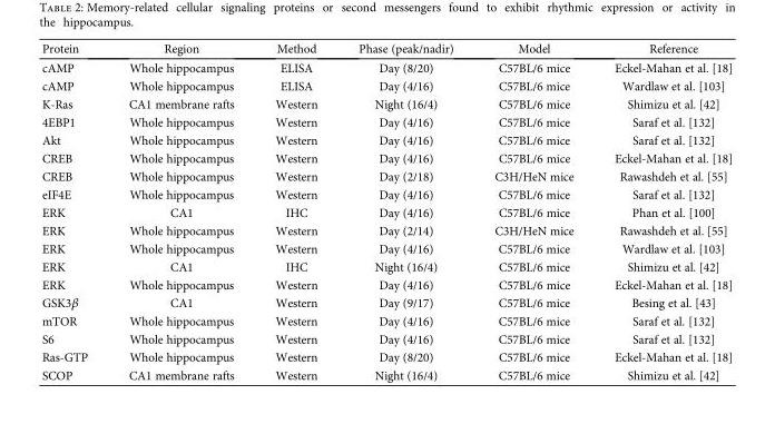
<table><thead><tr><td>Protein</td><td>Region</td><td>Method</td><td>Phase (peak/nadir)</td><td>Model</td><td>Reference</td></tr></thead><tbody><tr><td>cAMP</td><td>Whole hippocampus</td><td>ELISA</td><td>Day (8/20)</td><td>C57BL/6 mice</td><td>Eckel-Mahan et al. [18]</td></tr><tr><td>cAMP</td><td>Whole hippocampus</td><td>ELISA</td><td>Day (4/16)</td><td>C57BL/6 mice</td><td>Wardlaw et al. [103]</td></tr><tr><td>K-Ras</td><td>CA1 membrane rafts</td><td>Western</td><td>Night (16/4)</td><td>C57BL/6 mice</td><td>Shimizu et al. [42]</td></tr><tr><td>4EBP1</td><td>Whole hippocampus</td><td>Western</td><td>Day (4/16)</td><td>C57BL/6 mice</td><td>Saraf et al. [132]</td></tr><tr><td>Akt</td><td>Whole hippocampus</td><td>Western</td><td>Day (4/16)</td><td>C57BL/6 mice</td><td>Saraf et al. [132]</td></tr><tr><td>CREB</td><td>Whole hippocampus</td><td>Western</td><td>Day (4/16)</td><td>C57BL/6 mice</td><td>Eckel-Mahan et al. [18]</td></tr><tr><td>CREB</td><td>Whole hippocampus</td><td>Western</td><td>Day (2/18)</td><td>C3H/HeN mice</td><td>Rawashdeh et al. [55]</td></tr><tr><td>eIF4E</td><td>Whole hippocampus</td><td>Western</td><td>Day (4/16)</td><td>C57BL/6 mice</td><td>Saraf et al. [132]</td></tr><tr><td>ERK</td><td>CA1</td><td>IHC</td><td>Day (4/16)</td><td>C57BL/6 mice</td><td>Phan et al. [100]</td></tr><tr><td>ERK</td><td>Whole hippocampus</td><td>Western</td><td>Day (2/14)</td><td>C3H/HeN mice</td><td>Rawashdeh et al. [55]</td></tr><tr><td>ERK</td><td>Whole hippocampus</td><td>Western</td><td>Day (4/16)</td><td>C57BL/6 mice</td><td>Wardlaw et al. [103]</td></tr><tr><td>ERK</td><td>CA1</td><td>IHC</td><td>Night (16/4)</td><td>C57BL/6 mice</td><td>Shimizu et al. [42]</td></tr><tr><td>ERK</td><td>Whole hippocampus</td><td>Western</td><td>Day (4/16)</td><td>C57BL/6 mice</td><td>Eckel-Mahan et al. [18]</td></tr><tr><td>GSK3β</td><td>CA1</td><td>Western</td><td>Day (9/17)</td><td>C57BL/6 mice</td><td>Besing et al. [43]</td></tr><tr><td>mTOR</td><td>Whole hippocampus</td><td>Western</td><td>Day (4/16)</td><td>C57BL/6 mice</td><td>Saraf et al. [132]</td></tr><tr><td>S6</td><td>Whole hippocampus</td><td>Western</td><td>Day (4/16)</td><td>C57BL/6 mice</td><td>Saraf et al. [132]</td></tr><tr><td>Ras-GTP</td><td>Whole hippocampus</td><td>Western</td><td>Day (8/20)</td><td>C57BL/6 mice</td><td>Eckel-Mahan et al. [18]</td></tr><tr><td>SCOP</td><td>CA1 membrane rafts</td><td>Western</td><td>Night (16/4)</td><td>C57BL/6 mice</td><td>Shimizu et al. [42]</td></tr></tbody></table>